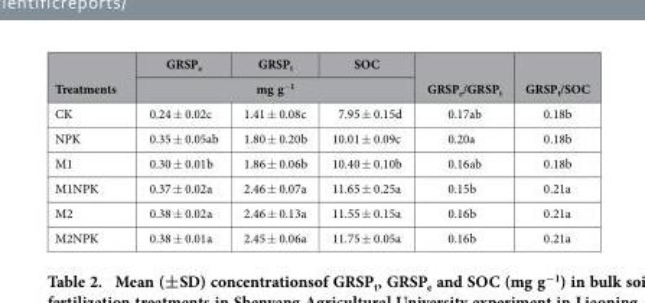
<table><thead><tr><td rowspan="2">Treatments</td><td>GRSP<sub>e</sub></td><td>GRSP<sub>t</sub></td><td>SOC</td><td rowspan="2">GRSP<sub>e</sub>/GRSP<sub>t</sub></td><td rowspan="2">GRSP<sub>t</sub>/SOC</td></tr><tr><td colspan="3">mg g<sup>−1</sup></td></tr></thead><tbody><tr><td>CK</td><td>0.24 ± 0.02c</td><td>1.41 ± 0.08c</td><td>7.95 ± 0.15d</td><td>0.17ab</td><td>0.18b</td></tr><tr><td>NPK</td><td>0.35 ± 0.05ab</td><td>1.80 ± 0.20b</td><td>10.01 ± 0.09c</td><td>0.20a</td><td>0.18b</td></tr><tr><td>M1</td><td>0.30 ± 0.01b</td><td>1.86 ± 0.06b</td><td>10.40 ± 0.10b</td><td>0.16ab</td><td>0.18b</td></tr><tr><td>M1NPK</td><td>0.37 ± 0.02a</td><td>2.46 ± 0.07a</td><td>11.65 ± 0.25a</td><td>0.15b</td><td>0.21a</td></tr><tr><td>M2</td><td>0.38 ± 0.02a</td><td>2.46 ± 0.13a</td><td>11.55 ± 0.15a</td><td>0.16b</td><td>0.21a</td></tr><tr><td>M2NPK</td><td>0.38 ± 0.01a</td><td>2.45 ± 0.06a</td><td>11.75 ± 0.05a</td><td>0.16b</td><td>0.21a</td></tr></tbody></table>